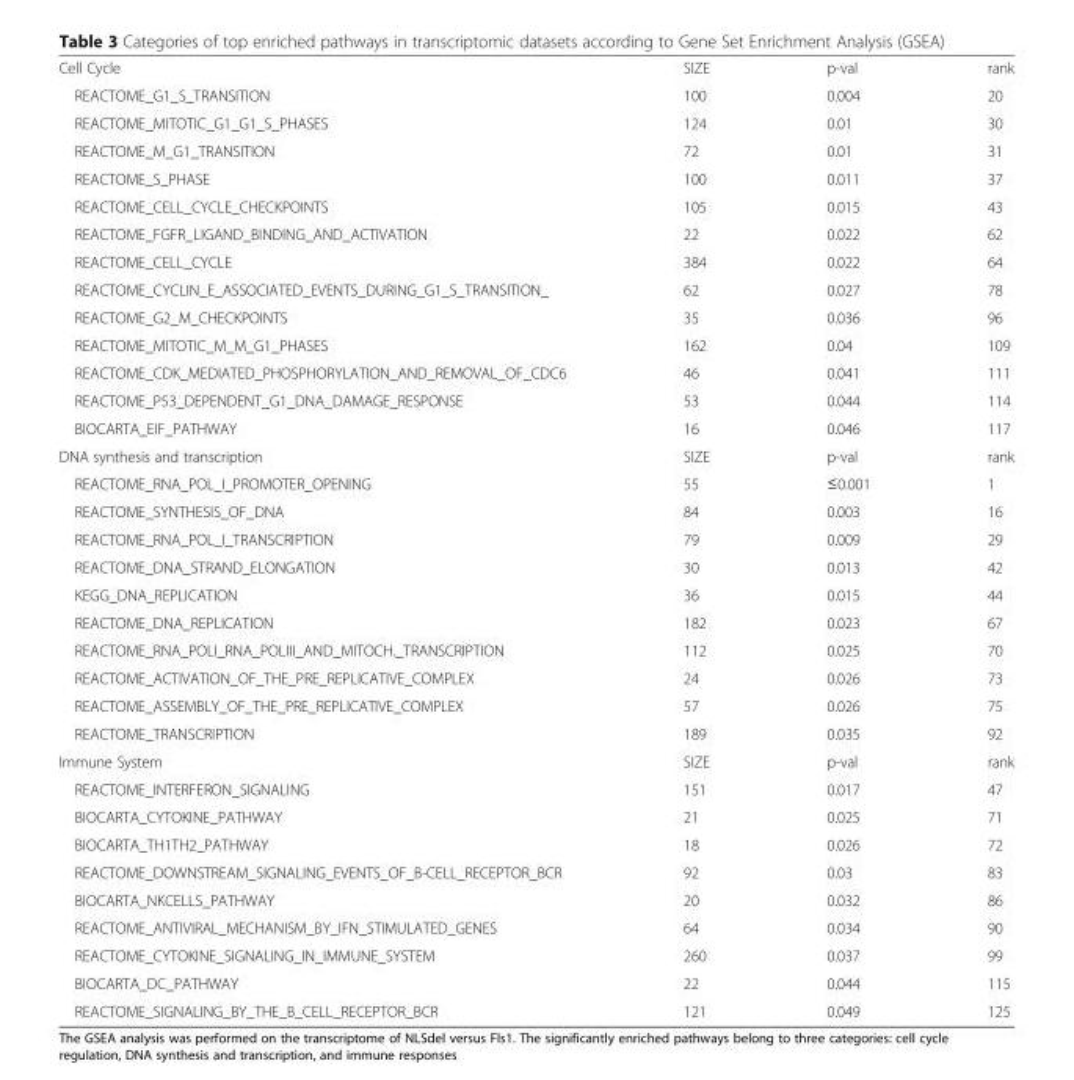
<table><tbody><tr><td>Cell Cycle</td><td>SIZE</td><td>p-val</td><td>rank</td></tr><tr><td>REACTOME_G1_S_TRANSITION</td><td>100</td><td>0.004</td><td>20</td></tr><tr><td>REACTOME_MITOTIC_G1_G1_S_PHASES</td><td>124</td><td>0.01</td><td>30</td></tr><tr><td>REACTOME_M_G1_TRANSITION</td><td>72</td><td>0.01</td><td>31</td></tr><tr><td>REACTOME_S_PHASE</td><td>100</td><td>0.011</td><td>37</td></tr><tr><td>REACTOME_CELL_CYCLE_CHECKPOINTS</td><td>105</td><td>0.015</td><td>43</td></tr><tr><td>REACTOME_FGFR_LIGAND_BINDING_AND_ACTIVATION</td><td>22</td><td>0.022</td><td>62</td></tr><tr><td>REACTOME_CELL_CYCLE</td><td>384</td><td>0.022</td><td>64</td></tr><tr><td>REACTOME_CYCLIN_E_ASSOCIATED_EVENTS_DURING_G1_S_TRANSITION_</td><td>62</td><td>0.027</td><td>78</td></tr><tr><td>REACTOME_G2_M_CHECKPOINTS</td><td>35</td><td>0.036</td><td>96</td></tr><tr><td>REACTOME_MITOTIC_M_M_G1_PHASES</td><td>162</td><td>0.04</td><td>109</td></tr><tr><td>REACTOME_CDK_MEDIATED_PHOSPHORYLATION_AND_REMOVAL_OF_CDC6</td><td>46</td><td>0.041</td><td>111</td></tr><tr><td>REACTOME_P53_DEPENDENT_G1_DNA_DAMAGE_RESPONSE</td><td>53</td><td>0.044</td><td>114</td></tr><tr><td>BIOCARTA_EIF_PATHWAY</td><td>16</td><td>0.046</td><td>117</td></tr><tr><td>DNA synthesis and transcription</td><td>SIZE</td><td>p-val</td><td>rank</td></tr><tr><td>REACTOME_RNA_POL_I_PROMOTER_OPENING</td><td>55</td><td>≤0.001</td><td>1</td></tr><tr><td>REACTOME_SYNTHESIS_OF_DNA</td><td>84</td><td>0.003</td><td>16</td></tr><tr><td>REACTOME_RNA_POL_I_TRANSCRIPTION</td><td>79</td><td>0.009</td><td>29</td></tr><tr><td>REACTOME_DNA_STRAND_ELONGATION</td><td>30</td><td>0.013</td><td>42</td></tr><tr><td>KEGG_DNA_REPLICATION</td><td>36</td><td>0.015</td><td>44</td></tr><tr><td>REACTOME_DNA_REPLICATION</td><td>182</td><td>0.023</td><td>67</td></tr><tr><td>REACTOME_RNA_POLI_RNA_POLIII_AND_MITOCH._TRANSCRIPTION</td><td>112</td><td>0.025</td><td>70</td></tr><tr><td>REACTOME_ACTIVATION_OF_THE_PRE_REPLICATIVE_COMPLEX</td><td>24</td><td>0.026</td><td>73</td></tr><tr><td>REACTOME_ASSEMBLY_OF_THE_PRE_REPLICATIVE_COMPLEX</td><td>57</td><td>0.026</td><td>75</td></tr><tr><td>REACTOME_TRANSCRIPTION</td><td>189</td><td>0.035</td><td>92</td></tr><tr><td>Immune System</td><td>SIZE</td><td>p-val</td><td>rank</td></tr><tr><td>REACTOME_INTERFERON_SIGNALING</td><td>151</td><td>0.017</td><td>47</td></tr><tr><td>BIOCARTA_CYTOKINE_PATHWAY</td><td>21</td><td>0.025</td><td>71</td></tr><tr><td>BIOCARTA_TH1TH2_PATHWAY</td><td>18</td><td>0.026</td><td>72</td></tr><tr><td>REACTOME_DOWNSTREAM_SIGNALING_EVENTS_OF_B-CELL_RECEPTOR_BCR</td><td>92</td><td>0.03</td><td>83</td></tr><tr><td>BIOCARTA_NKCELLS_PATHWAY</td><td>20</td><td>0.032</td><td>86</td></tr><tr><td>REACTOME_ANTIVIRAL_MECHANISM_BY_IFN_STIMULATED_GENES</td><td>64</td><td>0.034</td><td>90</td></tr><tr><td>REACTOME_CYTOKINE_SIGNALING_IN_IMMUNE_SYSTEM</td><td>260</td><td>0.037</td><td>99</td></tr><tr><td>BIOCARTA_DC_PATHWAY</td><td>22</td><td>0.044</td><td>115</td></tr><tr><td>REACTOME_SIGNALING_BY_THE_B_CELL_RECEPTOR_BCR</td><td>121</td><td>0.049</td><td>125</td></tr></tbody></table>